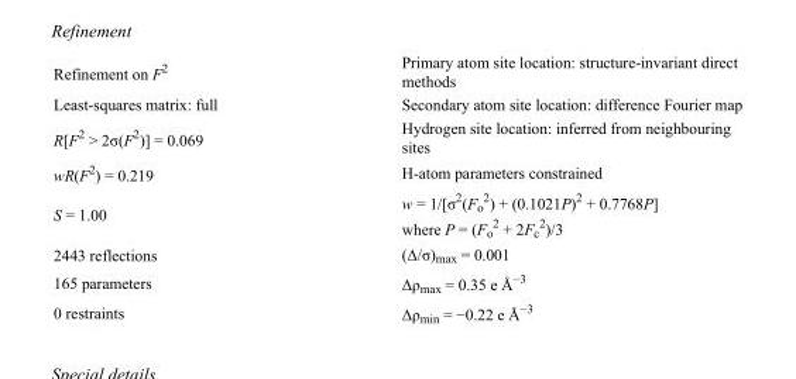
<table><tbody><tr><td>Refinement on F<sup>2</sup></td><td>Primary atom site location: structure-invariant direct methods</td></tr><tr><td>Least-squares matrix: full</td><td>Secondary atom site location: difference Fourier map</td></tr><tr><td>R[F<sup>2</sup> &gt; 2σ(F<sup>2</sup>)] = 0.069</td><td>Hydrogen site location: inferred from neighbouring sites</td></tr><tr><td>wR(F<sup>2</sup>) = 0.219</td><td>H-atom parameters constrained</td></tr><tr><td>S = 1.00</td><td>w = 1/[σ<sup>2</sup>(F<sub>o</sub> <sup>2</sup>) + (0.1021P)<sup>2</sup> + 0.7768P] where P = (F<sub>o</sub> <sup>2</sup> + 2F<sub>c</sub> <sup>2</sup>)/3</td></tr><tr><td>2443 reflections</td><td>(Δ/σ)<sub>max</sub> = 0.001</td></tr><tr><td>165 parameters</td><td>Δρ<sub>max</sub> = 0.35 e Å<sup>−3</sup></td></tr><tr><td>0 restraints</td><td>Δρ<sub>min</sub> = −0.22 e Å<sup>−3</sup></td></tr></tbody></table>